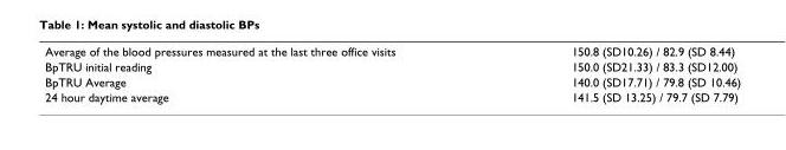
<table><tbody><tr><td>Average of the blood pressures measured at the last three office visits</td><td>150.8 (SD10.26) / 82.9 (SD 8.44)</td></tr><tr><td>BpTRU initial reading</td><td>150.0 (SD21.33) / 83.3 (SD12.00)</td></tr><tr><td>BpTRU Average</td><td>140.0 (SD17.71) / 79.8 (SD 10.46)</td></tr><tr><td>24 hour daytime average</td><td>141.5 (SD 13.25) / 79.7 (SD 7.79)</td></tr></tbody></table>